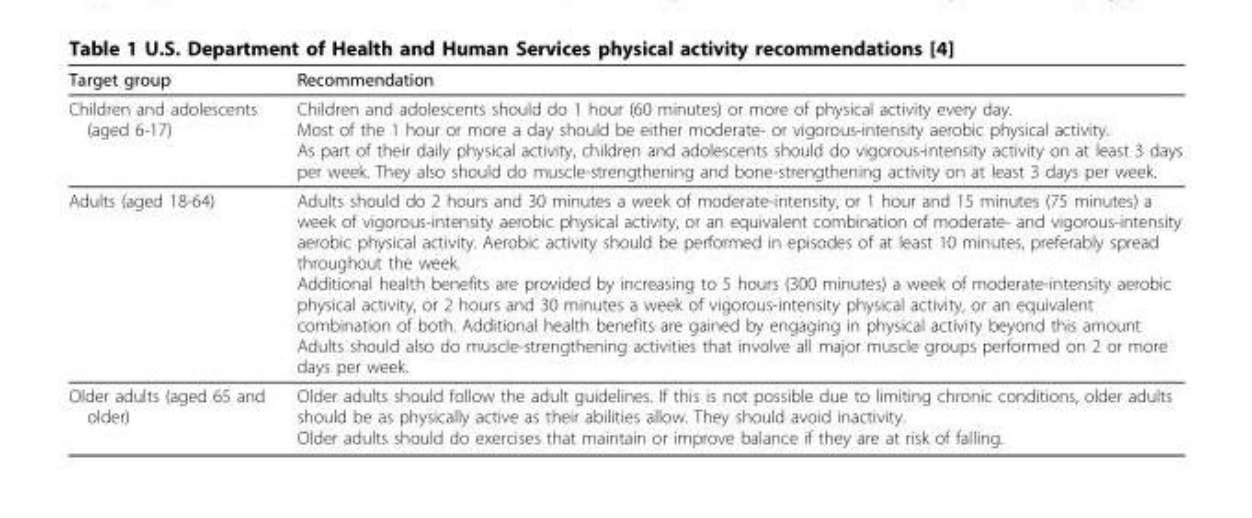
<table><thead><tr><td>Target group</td><td>Recommendation</td></tr></thead><tbody><tr><td>Children and adolescents (aged 6-17)</td><td>Children and adolescents should do 1 hour (60 minutes) or more of physical activity every day. Most of the 1 hour or more a day should be either moderate- or vigorous-intensity aerobic physical activity. As part of their daily physical activity, children and adolescents should do vigorous-intensity activity on at least 3 days per week. They also should do muscle-strengthening and bone-strengthening activity on at least 3 days per week.</td></tr><tr><td>Adults (aged 18-64)</td><td>Adults should do 2 hours and 30 minutes a week of moderate-intensity, or 1 hour and 15 minutes (75 minutes) a week of vigorous-intensity aerobic physical activity, or an equivalent combination of moderate- and vigorous-intensity aerobic physical activity. Aerobic activity should be performed in episodes of at least 10 minutes, preferably spread throughout the week. Additional health benefits are provided by increasing to 5 hours (300 minutes) a week of moderate-intensity aerobic physical activity, or 2 hours and 30 minutes a week of vigorous-intensity physical activity, or an equivalent combination of both. Additional health benefits are gained by engaging in physical activity beyond this amount Adults should also do muscle-strengthening activities that involve all major muscle groups performed on 2 or more days per week.</td></tr><tr><td>Older adults (aged 65 and older)</td><td>Older adults should follow the adult guidelines. If this is not possible due to limiting chronic conditions, older adults should be as physically active as their abilities allow. They should avoid inactivity. Older adults should do exercises that maintain or improve balance if they are at risk of falling.</td></tr></tbody></table>